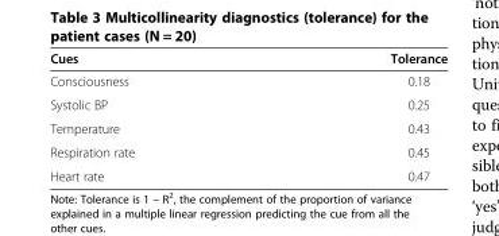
<table><thead><tr><td>Cues</td><td>Tolerance</td></tr></thead><tbody><tr><td>Consciousness</td><td>0.18</td></tr><tr><td>Systolic BP</td><td>0.25</td></tr><tr><td>Temperature</td><td>0.43</td></tr><tr><td>Respiration rate</td><td>0.45</td></tr><tr><td>Heart rate</td><td>0.47</td></tr></tbody></table>